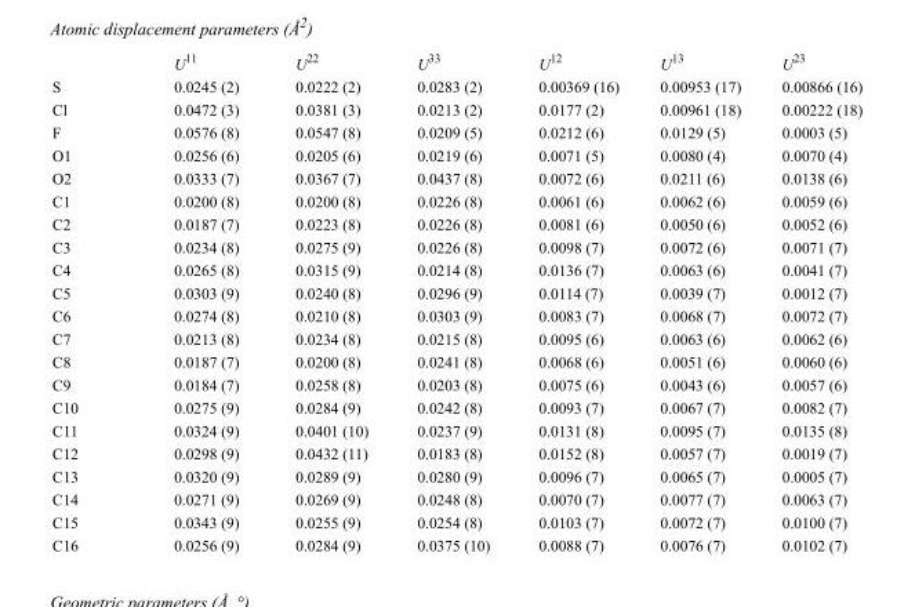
<table><thead><tr><td></td><td>U<sup>11</sup></td><td>U<sup>22</sup></td><td>U<sup>33</sup></td><td>U<sup>12</sup></td><td>U<sup>13</sup></td><td>U<sup>23</sup></td></tr></thead><tbody><tr><td>S</td><td>0.0245 (2)</td><td>0.0222 (2)</td><td>0.0283 (2)</td><td>0.00369 (16)</td><td>0.00953 (17)</td><td>0.00866 (16)</td></tr><tr><td>Cl</td><td>0.0472 (3)</td><td>0.0381 (3)</td><td>0.0213 (2)</td><td>0.0177 (2)</td><td>0.00961 (18)</td><td>0.00222 (18)</td></tr><tr><td>F</td><td>0.0576 (8)</td><td>0.0547 (8)</td><td>0.0209 (5)</td><td>0.0212 (6)</td><td>0.0129 (5)</td><td>0.0003 (5)</td></tr><tr><td>O1</td><td>0.0256 (6)</td><td>0.0205 (6)</td><td>0.0219 (6)</td><td>0.0071 (5)</td><td>0.0080 (4)</td><td>0.0070 (4)</td></tr><tr><td>O2</td><td>0.0333 (7)</td><td>0.0367 (7)</td><td>0.0437 (8)</td><td>0.0072 (6)</td><td>0.0211 (6)</td><td>0.0138 (6)</td></tr><tr><td>C1</td><td>0.0200 (8)</td><td>0.0200 (8)</td><td>0.0226 (8)</td><td>0.0061 (6)</td><td>0.0062 (6)</td><td>0.0059 (6)</td></tr><tr><td>C2</td><td>0.0187 (7)</td><td>0.0223 (8)</td><td>0.0226 (8)</td><td>0.0081 (6)</td><td>0.0050 (6)</td><td>0.0052 (6)</td></tr><tr><td>C3</td><td>0.0234 (8)</td><td>0.0275 (9)</td><td>0.0226 (8)</td><td>0.0098 (7)</td><td>0.0072 (6)</td><td>0.0071 (7)</td></tr><tr><td>C4</td><td>0.0265 (8)</td><td>0.0315 (9)</td><td>0.0214 (8)</td><td>0.0136 (7)</td><td>0.0063 (6)</td><td>0.0041 (7)</td></tr><tr><td>C5</td><td>0.0303 (9)</td><td>0.0240 (8)</td><td>0.0296 (9)</td><td>0.0114 (7)</td><td>0.0039 (7)</td><td>0.0012 (7)</td></tr><tr><td>C6</td><td>0.0274 (8)</td><td>0.0210 (8)</td><td>0.0303 (9)</td><td>0.0083 (7)</td><td>0.0068 (7)</td><td>0.0072 (7)</td></tr><tr><td>C7</td><td>0.0213 (8)</td><td>0.0234 (8)</td><td>0.0215 (8)</td><td>0.0095 (6)</td><td>0.0063 (6)</td><td>0.0062 (6)</td></tr><tr><td>C8</td><td>0.0187 (7)</td><td>0.0200 (8)</td><td>0.0241 (8)</td><td>0.0068 (6)</td><td>0.0051 (6)</td><td>0.0060 (6)</td></tr><tr><td>C9</td><td>0.0184 (7)</td><td>0.0258 (8)</td><td>0.0203 (8)</td><td>0.0075 (6)</td><td>0.0043 (6)</td><td>0.0057 (6)</td></tr><tr><td>C10</td><td>0.0275 (9)</td><td>0.0284 (9)</td><td>0.0242 (8)</td><td>0.0093 (7)</td><td>0.0067 (7)</td><td>0.0082 (7)</td></tr><tr><td>C11</td><td>0.0324 (9)</td><td>0.0401 (10)</td><td>0.0237 (9)</td><td>0.0131 (8)</td><td>0.0095 (7)</td><td>0.0135 (8)</td></tr><tr><td>C12</td><td>0.0298 (9)</td><td>0.0432 (11)</td><td>0.0183 (8)</td><td>0.0152 (8)</td><td>0.0057 (7)</td><td>0.0019 (7)</td></tr><tr><td>C13</td><td>0.0320 (9)</td><td>0.0289 (9)</td><td>0.0280 (9)</td><td>0.0096 (7)</td><td>0.0065 (7)</td><td>0.0005 (7)</td></tr><tr><td>C14</td><td>0.0271 (9)</td><td>0.0269 (9)</td><td>0.0248 (8)</td><td>0.0070 (7)</td><td>0.0077 (7)</td><td>0.0063 (7)</td></tr><tr><td>C15</td><td>0.0343 (9)</td><td>0.0255 (9)</td><td>0.0254 (8)</td><td>0.0103 (7)</td><td>0.0072 (7)</td><td>0.0100 (7)</td></tr><tr><td>C16</td><td>0.0256 (9)</td><td>0.0284 (9)</td><td>0.0375 (10)</td><td>0.0088 (7)</td><td>0.0076 (7)</td><td>0.0102 (7)</td></tr></tbody></table>